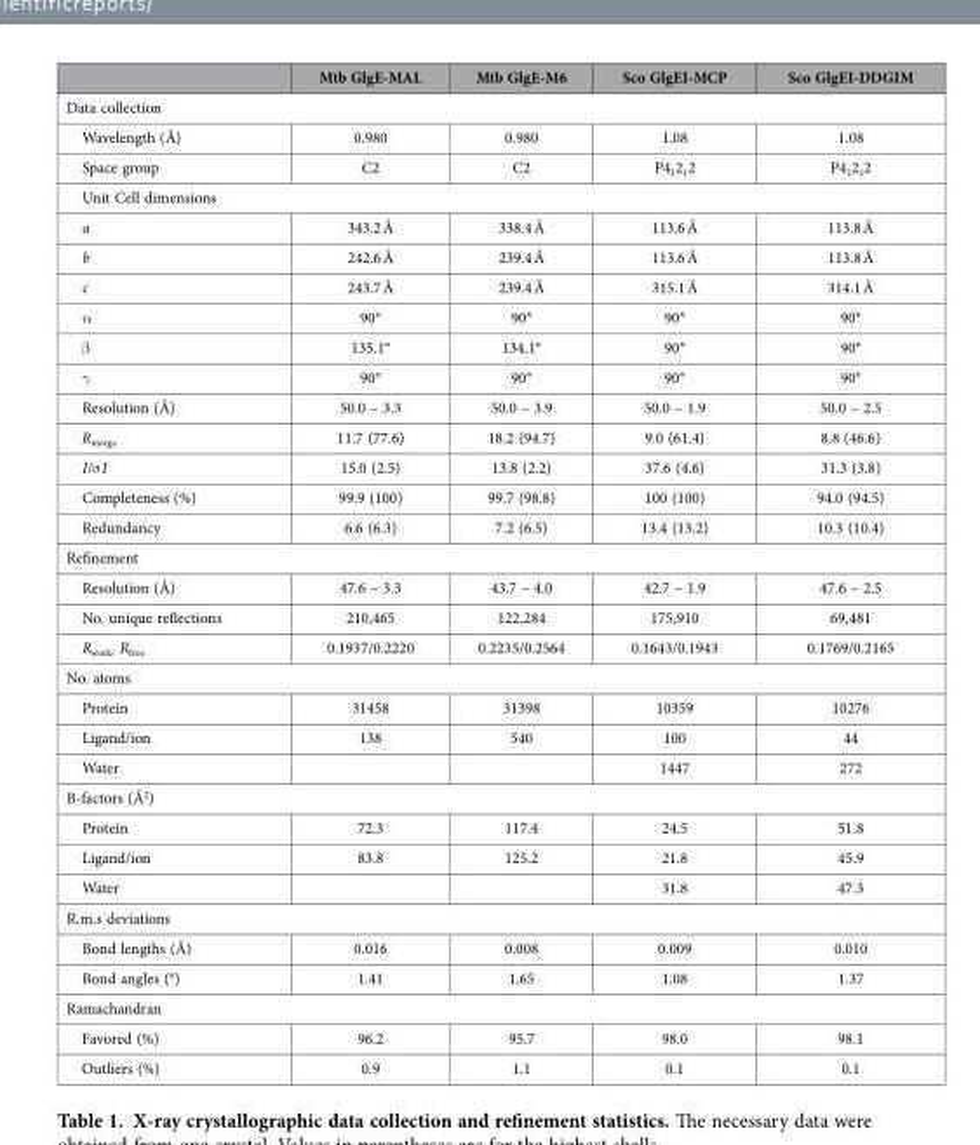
<table><thead><tr><td></td><td>Mtb GlgE-MAL</td><td>Mtb GlgE-M6</td><td>Sco GlgEI-MCP</td><td>Sco GlgEI-DDGIM</td></tr></thead><tbody><tr><td colspan="5">Data collection</td></tr><tr><td>Wavelength (Å)</td><td>0.980</td><td>0.980</td><td>1.08</td><td>1.08</td></tr><tr><td>Space group</td><td>C2</td><td>C2</td><td>P4<sub>1</sub>2<sub>1</sub>2</td><td>P4<sub>1</sub>2<sub>1</sub>2</td></tr><tr><td colspan="5">Unit Cell dimensions</td></tr><tr><td>a</td><td>343.2 Å</td><td>338.4 Å</td><td>113.6 Å</td><td>113.8 Å</td></tr><tr><td>b</td><td>242.6 Å</td><td>239.4 Å</td><td>113.6 Å</td><td>113.8 Å</td></tr><tr><td>c</td><td>243.7 Å</td><td>239.4 Å</td><td>315.1 Å</td><td>314.1 Å</td></tr><tr><td>α</td><td>90°</td><td>90°</td><td>90°</td><td>90°</td></tr><tr><td>β</td><td>135.1°</td><td>134.1°</td><td>90°</td><td>90°</td></tr><tr><td>γ</td><td>90°</td><td>90°</td><td>90°</td><td>90°</td></tr><tr><td>Resolution (Å)</td><td>50.0 – 3.3</td><td>50.0 – 3.9</td><td>50.0 – 1.9</td><td>50.0 – 2.5</td></tr><tr><td>R<sub>merge</sub></td><td>11.7 (77.6)</td><td>18.2 (94.7)</td><td>9.0 (61.4)</td><td>8.8 (46.6)</td></tr><tr><td>I/σ I</td><td>15.0 (2.5)</td><td>13.8 (2.2)</td><td>37.6 (4.6)</td><td>31.3 (3.8)</td></tr><tr><td>Completeness (%)</td><td>99.9 (100)</td><td>99.7 (98.8)</td><td>100 (100)</td><td>94.0 (94.5)</td></tr><tr><td>Redundancy</td><td>6.6 (6.3)</td><td>7.2 (6.5)</td><td>13.4 (13.2)</td><td>10.3 (10.4)</td></tr><tr><td colspan="5">Refinement</td></tr><tr><td>Resolution (Å)</td><td>47.6 – 3.3</td><td>43.7 – 4.0</td><td>42.7 – 1.9</td><td>47.6 – 2.5</td></tr><tr><td>No. unique reflections</td><td>210,465</td><td>122,284</td><td>175,910</td><td>69,481</td></tr><tr><td>R<sub>work/</sub> R<sub>free</sub></td><td>0.1937/0.2220</td><td>0.2235/0.2564</td><td>0.1643/0.1943</td><td>0.1769/0.2165</td></tr><tr><td colspan="5">No. atoms</td></tr><tr><td>Protein</td><td>31458</td><td>31398</td><td>10359</td><td>10276</td></tr><tr><td>Ligand/ion</td><td>138</td><td>540</td><td>100</td><td>44</td></tr><tr><td>Water</td><td></td><td></td><td>1447</td><td>272</td></tr><tr><td colspan="5">B-factors (Å<sup>2</sup>)</td></tr><tr><td>Protein</td><td>72.3</td><td>117.4</td><td>24.5</td><td>51.8</td></tr><tr><td>Ligand/ion</td><td>83.8</td><td>125.2</td><td>21.8</td><td>45.9</td></tr><tr><td>Water</td><td></td><td></td><td>31.8</td><td>47.3</td></tr><tr><td colspan="5">R.m.s deviations</td></tr><tr><td>Bond lengths (Å)</td><td>0.016</td><td>0.008</td><td>0.009</td><td>0.010</td></tr><tr><td>Bond angles (°)</td><td>1.41</td><td>1.65</td><td>1.08</td><td>1.37</td></tr><tr><td colspan="5">Ramachandran</td></tr><tr><td>Favored (%)</td><td>96.2</td><td>95.7</td><td>98.0</td><td>98.1</td></tr><tr><td>Outliers (%)</td><td>0.9</td><td>1.1</td><td>0.1</td><td>0.1</td></tr></tbody></table>